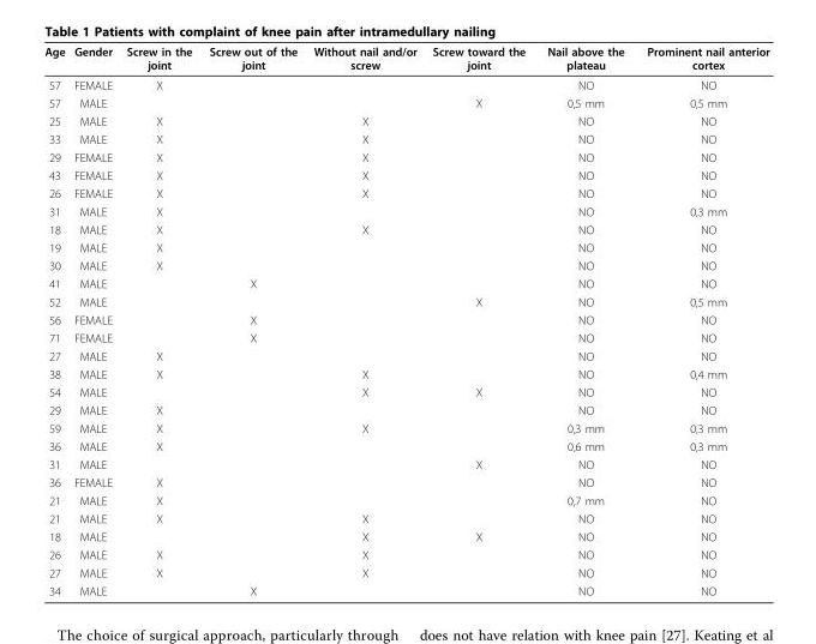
<table><thead><tr><td>Age</td><td>Gender</td><td>Screw in the joint</td><td>Screw out of the joint</td><td>Without nail and/or screw</td><td>Screw toward the joint</td><td>Nail above the plateau</td><td>Prominent nail anterior cortex</td></tr></thead><tbody><tr><td>57</td><td>FEMALE</td><td>X</td><td></td><td></td><td></td><td>NO</td><td>NO</td></tr><tr><td>57</td><td>MALE</td><td></td><td></td><td></td><td>X</td><td>0,5 mm</td><td>0,5 mm</td></tr><tr><td>25</td><td>MALE</td><td>X</td><td></td><td>X</td><td></td><td>NO</td><td>NO</td></tr><tr><td>33</td><td>MALE</td><td>X</td><td></td><td>X</td><td></td><td>NO</td><td>NO</td></tr><tr><td>29</td><td>FEMALE</td><td>X</td><td></td><td>X</td><td></td><td>NO</td><td>NO</td></tr><tr><td>43</td><td>FEMALE</td><td>X</td><td></td><td>X</td><td></td><td>NO</td><td>NO</td></tr><tr><td>26</td><td>FEMALE</td><td>X</td><td></td><td>X</td><td></td><td>NO</td><td>NO</td></tr><tr><td>31</td><td>MALE</td><td>X</td><td></td><td></td><td></td><td>NO</td><td>0,3 mm</td></tr><tr><td>18</td><td>MALE</td><td>X</td><td></td><td>X</td><td></td><td>NO</td><td>NO</td></tr><tr><td>19</td><td>MALE</td><td>X</td><td></td><td></td><td></td><td>NO</td><td>NO</td></tr><tr><td>30</td><td>MALE</td><td>X</td><td></td><td></td><td></td><td>NO</td><td>NO</td></tr><tr><td>41</td><td>MALE</td><td></td><td>X</td><td></td><td></td><td>NO</td><td>NO</td></tr><tr><td>52</td><td>MALE</td><td></td><td></td><td></td><td>X</td><td>NO</td><td>0,5 mm</td></tr><tr><td>56</td><td>FEMALE</td><td></td><td>X</td><td></td><td></td><td>NO</td><td>NO</td></tr><tr><td>71</td><td>FEMALE</td><td></td><td>X</td><td></td><td></td><td>NO</td><td>NO</td></tr><tr><td>27</td><td>MALE</td><td>X</td><td></td><td></td><td></td><td>NO</td><td>NO</td></tr><tr><td>38</td><td>MALE</td><td>X</td><td></td><td>X</td><td></td><td>NO</td><td>0,4 mm</td></tr><tr><td>54</td><td>MALE</td><td></td><td></td><td>X</td><td>X</td><td>NO</td><td>NO</td></tr><tr><td>29</td><td>MALE</td><td>X</td><td></td><td></td><td></td><td>NO</td><td>NO</td></tr><tr><td>59</td><td>MALE</td><td>X</td><td></td><td>X</td><td></td><td>0,3 mm</td><td>0,3 mm</td></tr><tr><td>36</td><td>MALE</td><td>X</td><td></td><td></td><td></td><td>0,6 mm</td><td>0,3 mm</td></tr><tr><td>31</td><td>MALE</td><td></td><td></td><td></td><td>X</td><td>NO</td><td>NO</td></tr><tr><td>36</td><td>FEMALE</td><td>X</td><td></td><td></td><td></td><td>NO</td><td>NO</td></tr><tr><td>21</td><td>MALE</td><td>X</td><td></td><td></td><td></td><td>0,7 mm</td><td>NO</td></tr><tr><td>21</td><td>MALE</td><td>X</td><td></td><td>X</td><td></td><td>NO</td><td>NO</td></tr><tr><td>18</td><td>MALE</td><td></td><td></td><td>X</td><td>X</td><td>NO</td><td>NO</td></tr><tr><td>26</td><td>MALE</td><td>X</td><td></td><td>X</td><td></td><td>NO</td><td>NO</td></tr><tr><td>27</td><td>MALE</td><td>X</td><td></td><td>X</td><td></td><td>NO</td><td>NO</td></tr><tr><td>34</td><td>MALE</td><td></td><td>X</td><td></td><td></td><td>NO</td><td>NO</td></tr></tbody></table>